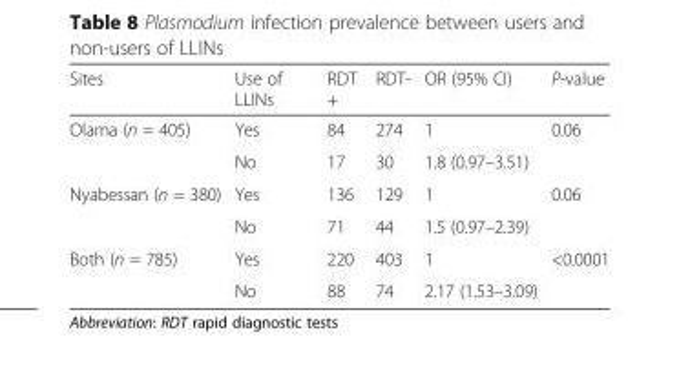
<table><thead><tr><td>Sites</td><td>Use of LLINs</td><td>RDT +</td><td>RDT-</td><td>OR (95% CI)</td><td>P-value</td></tr></thead><tbody><tr><td rowspan="2">Olama (n = 405)</td><td>Yes</td><td>84</td><td>274</td><td>1</td><td>0.06</td></tr><tr><td>No</td><td>17</td><td>30</td><td>1.8 (0.97–3.51)</td><td></td></tr><tr><td rowspan="2">Nyabessan (n = 380)</td><td>Yes</td><td>136</td><td>129</td><td>1</td><td>0.06</td></tr><tr><td>No</td><td>71</td><td>44</td><td>1.5 (0.97–2.39)</td><td></td></tr><tr><td rowspan="2">Both (n = 785)</td><td>Yes</td><td>220</td><td>403</td><td>1</td><td>&lt;0.0001</td></tr><tr><td>No</td><td>88</td><td>74</td><td>2.17 (1.53–3.09)</td><td></td></tr></tbody></table>